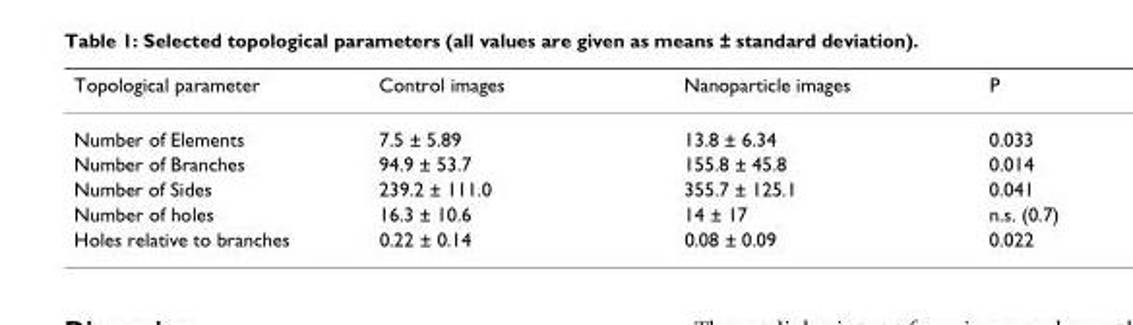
<table><thead><tr><td>Topological parameter</td><td>Control images</td><td>Nanoparticle images</td><td>P</td></tr></thead><tbody><tr><td>Number of Elements</td><td>7.5 ± 5.89</td><td>13.8 ± 6.34</td><td>0.033</td></tr><tr><td>Number of Branches</td><td>94.9 ± 53.7</td><td>155.8 ± 45.8</td><td>0.014</td></tr><tr><td>Number of Sides</td><td>239.2 ± 111.0</td><td>355.7 ± 125.1</td><td>0.041</td></tr><tr><td>Number of holes</td><td>16.3 ± 10.6</td><td>14 ± 17</td><td>n.s. (0.7)</td></tr><tr><td>Holes relative to branches</td><td>0.22 ± 0.14</td><td>0.08 ± 0.09</td><td>0.022</td></tr></tbody></table>